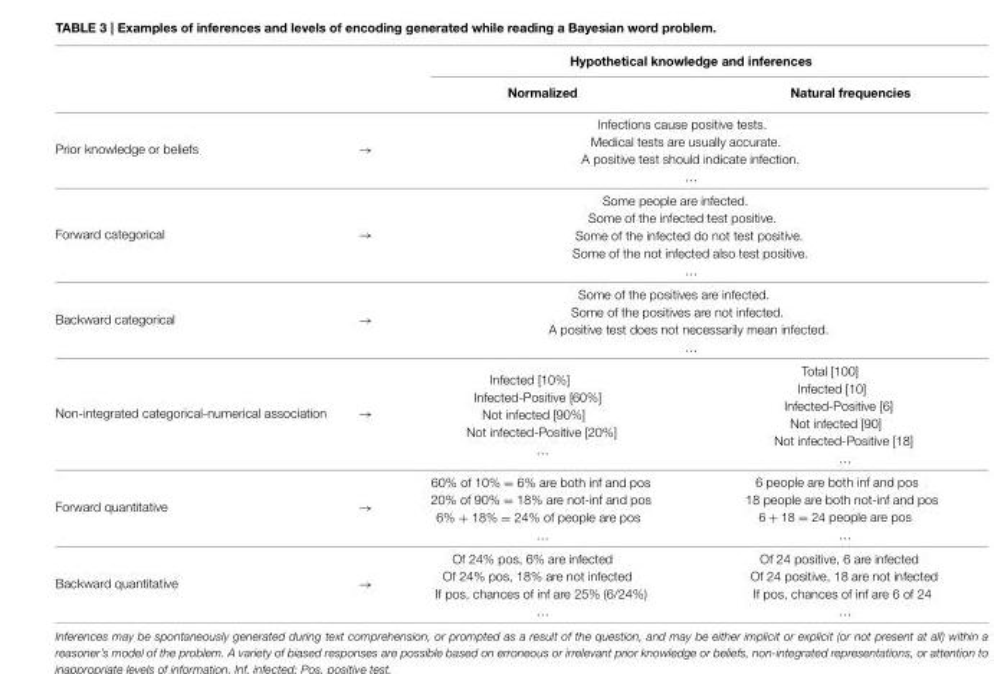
<table><thead><tr><td rowspan="2"></td><td rowspan="2"></td><td colspan="2">Hypothetical knowledge and inferences</td></tr><tr><td>Normalized</td><td>Natural frequencies</td></tr></thead><tbody><tr><td>Prior knowledge or beliefs</td><td>→</td><td colspan="2">Infections cause positive tests. Medical tests are usually accurate. A positive test should indicate infection. …</td></tr><tr><td>Forward categorical</td><td>→</td><td colspan="2">Some people are infected. Some of the infected test positive. Some of the infected do not test positive. Some of the not infected also test positive. …</td></tr><tr><td>Backward categorical</td><td>→</td><td colspan="2">Some of the positives are infected. Some of the positives are not infected. A positive test does not necessarily mean infected. …</td></tr><tr><td>Non-integrated categorical-numerical association</td><td>→</td><td>Infected [10%] Infected-Positive [60%] Not infected [90%] Not infected-Positive [20%] …</td><td>Total [100] Infected [10] Infected-Positive [6] Not infected [90] Not infected-Positive [18] …</td></tr><tr><td>Forward quantitative</td><td>→</td><td>60% of 10% = 6% are both inf and pos 20% of 90% = 18% are not-inf and pos 6% + 18% = 24% of people are pos …</td><td>6 people are both inf and pos 18 people are both not-inf and pos 6 + 18 = 24 people are pos …</td></tr><tr><td>Backward quantitative</td><td>→</td><td>Of 24% pos, 6% are infected Of 24% pos, 18% are not infected If pos, chances of inf are 25% (6/24%) …</td><td>Of 24 positive, 6 are infected Of 24 positive, 18 are not infected If pos, chances of inf are 6 of 24 …</td></tr></tbody></table>